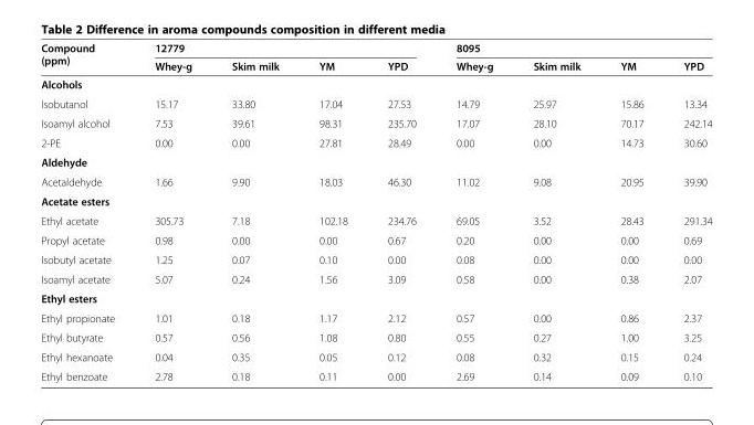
<table><thead><tr><td rowspan="2">Compound (ppm)</td><td colspan="4">12779</td><td colspan="4">8095</td></tr><tr><td>Whey-g</td><td>Skim milk</td><td>YM</td><td>YPD</td><td>Whey-g</td><td>Skim milk</td><td>YM</td><td>YPD</td></tr></thead><tbody><tr><td colspan="9">Alcohols</td></tr><tr><td>Isobutanol</td><td>15.17</td><td>33.80</td><td>17.04</td><td>27.53</td><td>14.79</td><td>25.97</td><td>15.86</td><td>13.34</td></tr><tr><td>Isoamyl alcohol</td><td>7.53</td><td>39.61</td><td>98.31</td><td>235.70</td><td>17.07</td><td>28.10</td><td>70.17</td><td>242.14</td></tr><tr><td>2-PE</td><td>0.00</td><td>0.00</td><td>27.81</td><td>28.49</td><td>0.00</td><td>0.00</td><td>14.73</td><td>30.60</td></tr><tr><td colspan="9">Aldehyde</td></tr><tr><td>Acetaldehyde</td><td>1.66</td><td>9.90</td><td>18.03</td><td>46.30</td><td>11.02</td><td>9.08</td><td>20.95</td><td>39.90</td></tr><tr><td colspan="9">Acetate esters</td></tr><tr><td>Ethyl acetate</td><td>305.73</td><td>7.18</td><td>102.18</td><td>234.76</td><td>69.05</td><td>3.52</td><td>28.43</td><td>291.34</td></tr><tr><td>Propyl acetate</td><td>0.98</td><td>0.00</td><td>0.00</td><td>0.67</td><td>0.20</td><td>0.00</td><td>0.00</td><td>0.69</td></tr><tr><td>Isobutyl acetate</td><td>1.25</td><td>0.07</td><td>0.10</td><td>0.00</td><td>0.08</td><td>0.00</td><td>0.00</td><td>0.00</td></tr><tr><td>Isoamyl acetate</td><td>5.07</td><td>0.24</td><td>1.56</td><td>3.09</td><td>0.58</td><td>0.00</td><td>0.38</td><td>2.07</td></tr><tr><td colspan="9">Ethyl esters</td></tr><tr><td>Ethyl propionate</td><td>1.01</td><td>0.18</td><td>1.17</td><td>2.12</td><td>0.57</td><td>0.00</td><td>0.86</td><td>2.37</td></tr><tr><td>Ethyl butyrate</td><td>0.57</td><td>0.56</td><td>1.08</td><td>0.80</td><td>0.55</td><td>0.27</td><td>1.00</td><td>3.25</td></tr><tr><td>Ethyl hexanoate</td><td>0.04</td><td>0.35</td><td>0.05</td><td>0.12</td><td>0.08</td><td>0.32</td><td>0.15</td><td>0.24</td></tr><tr><td>Ethyl benzoate</td><td>2.78</td><td>0.18</td><td>0.11</td><td>0.00</td><td>2.69</td><td>0.14</td><td>0.09</td><td>0.10</td></tr></tbody></table>